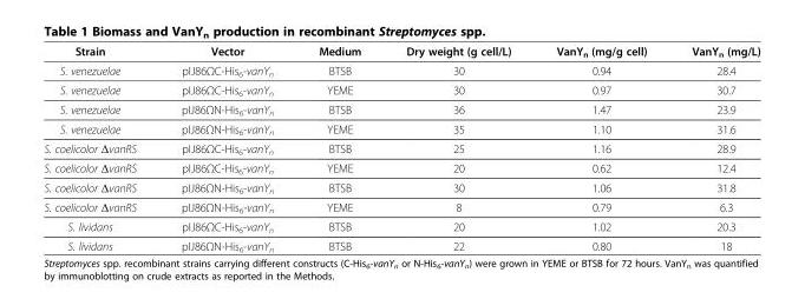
<table><thead><tr><td>Strain</td><td>Vector</td><td>Medium</td><td>Dry weight (g cell/L)</td><td>VanY<sub>n</sub> (mg/g cell)</td><td>VanY<sub>n</sub> (mg/L)</td></tr></thead><tbody><tr><td>S. venezuelae</td><td>pIJ86ΩC-His<sub>6</sub>-vanY<sub>n</sub></td><td>BTSB</td><td>30</td><td>0.94</td><td>28.4</td></tr><tr><td>S. venezuelae</td><td>pIJ86ΩC-His<sub>6</sub>-vanY<sub>n</sub></td><td>YEME</td><td>30</td><td>0.97</td><td>30.7</td></tr><tr><td>S. venezuelae</td><td>pIJ86ΩN-His<sub>6</sub>-vanY<sub>n</sub></td><td>BTSB</td><td>36</td><td>1.47</td><td>23.9</td></tr><tr><td>S. venezuelae</td><td>pIJ86ΩN-His<sub>6</sub>-vanY<sub>n</sub></td><td>YEME</td><td>35</td><td>1.10</td><td>31.6</td></tr><tr><td>S. coelicolor ΔvanRS</td><td>pIJ86ΩC-His<sub>6</sub>-vanY<sub>n</sub></td><td>BTSB</td><td>25</td><td>1.16</td><td>28.9</td></tr><tr><td>S. coelicolor ΔvanRS</td><td>pIJ86ΩC-His<sub>6</sub>-vanY<sub>n</sub></td><td>YEME</td><td>20</td><td>0.62</td><td>12.4</td></tr><tr><td>S. coelicolor ΔvanRS</td><td>pIJ86ΩN-His<sub>6</sub>-vanY<sub>n</sub></td><td>BTSB</td><td>30</td><td>1.06</td><td>31.8</td></tr><tr><td>S. coelicolor ΔvanRS</td><td>pIJ86ΩN-His<sub>6</sub>-vanY<sub>n</sub></td><td>YEME</td><td>8</td><td>0.79</td><td>6.3</td></tr><tr><td>S. lividans</td><td>pIJ86ΩC-His<sub>6</sub>-vanY<sub>n</sub></td><td>BTSB</td><td>20</td><td>1.02</td><td>20.3</td></tr><tr><td>S. lividans</td><td>pIJ86ΩN-His<sub>6</sub>-vanY<sub>n</sub></td><td>BTSB</td><td>22</td><td>0.80</td><td>18</td></tr></tbody></table>